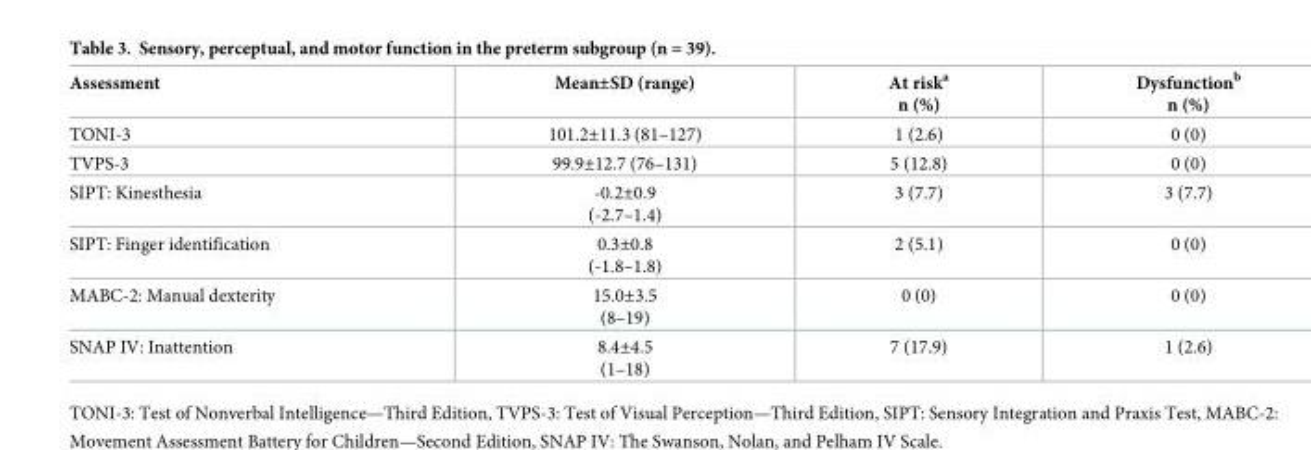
<table><thead><tr><td>Assessment</td><td>Mean±SD (range)</td><td>At risk<sup>a</sup> n (%)</td><td>Dysfunction<sup>b</sup> n (%)</td></tr></thead><tbody><tr><td>TONI-3</td><td>101.2±11.3 (81–127)</td><td>1 (2.6)</td><td>0 (0)</td></tr><tr><td>TVPS-3</td><td>99.9±12.7 (76–131)</td><td>5 (12.8)</td><td>0 (0)</td></tr><tr><td>SIPT: Kinesthesia</td><td>-0.2±0.9 (-2.7–1.4)</td><td>3 (7.7)</td><td>3 (7.7)</td></tr><tr><td>SIPT: Finger identification</td><td>0.3±0.8 (-1.8–1.8)</td><td>2 (5.1)</td><td>0 (0)</td></tr><tr><td>MABC-2: Manual dexterity</td><td>15.0±3.5 (8–19)</td><td>0 (0)</td><td>0 (0)</td></tr><tr><td>SNAP IV: Inattention</td><td>8.4±4.5 (1–18)</td><td>7 (17.9)</td><td>1 (2.6)</td></tr></tbody></table>